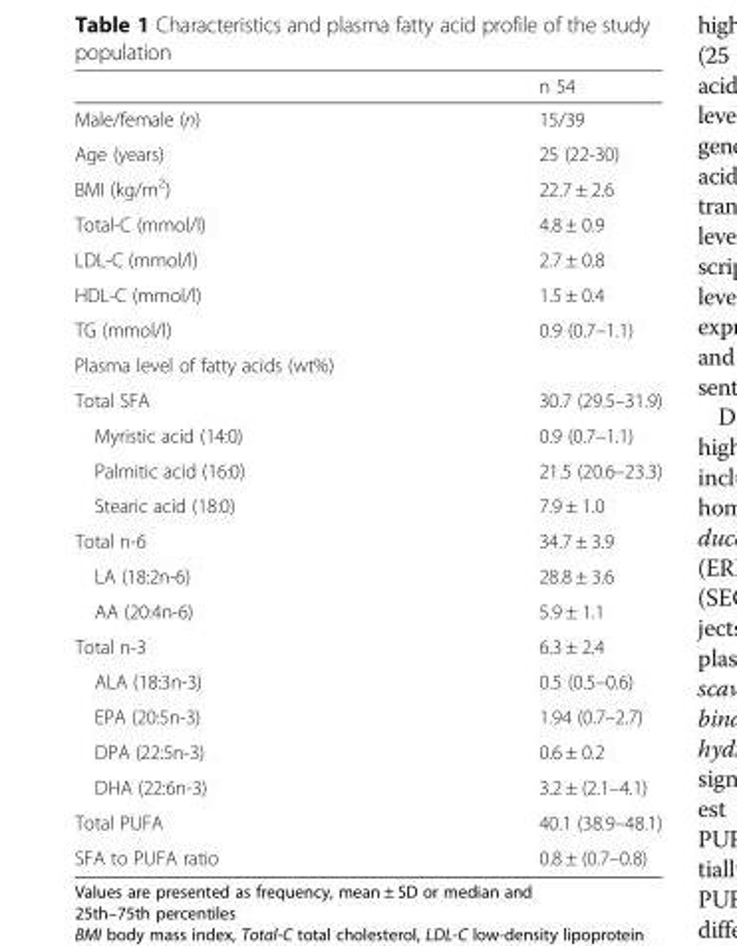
<table><thead><tr><td></td><td>n 54</td></tr></thead><tbody><tr><td>Male/female (n)</td><td>15/39</td></tr><tr><td>Age (years)</td><td>25 (22-30)</td></tr><tr><td>BMI (kg/m<sup>2</sup>)</td><td>22.7 ± 2.6</td></tr><tr><td>Total-C (mmol/l)</td><td>4.8 ± 0.9</td></tr><tr><td>LDL-C (mmol/l)</td><td>2.7 ± 0.8</td></tr><tr><td>HDL-C (mmol/l)</td><td>1.5 ± 0.4</td></tr><tr><td>TG (mmol/l)</td><td>0.9 (0.7–1.1)</td></tr><tr><td colspan="2">Plasma level of fatty acids (wt%)</td></tr><tr><td>Total SFA</td><td>30.7 (29.5–31.9)</td></tr><tr><td>Myristic acid (14:0)</td><td>0.9 (0.7–1.1)</td></tr><tr><td>Palmitic acid (16:0)</td><td>21.5 (20.6–23.3)</td></tr><tr><td>Stearic acid (18:0)</td><td>7.9 ± 1.0</td></tr><tr><td>Total n-6</td><td>34.7 ± 3.9</td></tr><tr><td>LA (18:2n-6)</td><td>28.8 ± 3.6</td></tr><tr><td>AA (20:4n-6)</td><td>5.9 ± 1.1</td></tr><tr><td>Total n-3</td><td>6.3 ± 2.4</td></tr><tr><td>ALA (18:3n-3)</td><td>0.5 (0.5–0.6)</td></tr><tr><td>EPA (20:5n-3)</td><td>1.94 (0.7–2.7)</td></tr><tr><td>DPA (22:5n-3)</td><td>0.6 ± 0.2</td></tr><tr><td>DHA (22:6n-3)</td><td>3.2 ± (2.1–4.1)</td></tr><tr><td>Total PUFA</td><td>40.1 (38.9–48.1)</td></tr><tr><td>SFA to PUFA ratio</td><td>0.8 ± (0.7–0.8)</td></tr></tbody></table>